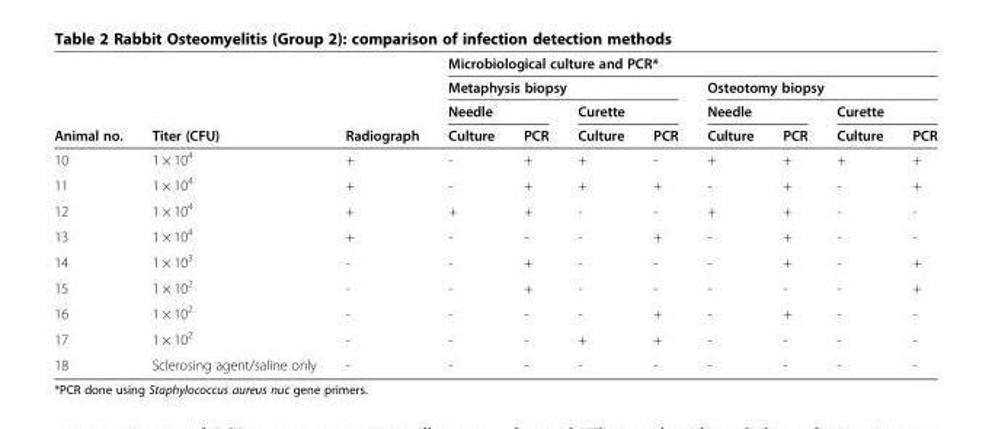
<table><thead><tr><td rowspan="4">Animal no.</td><td rowspan="4">Titer (CFU)</td><td rowspan="4">Radiograph</td><td colspan="8">Microbiological culture and PCR*</td></tr><tr><td colspan="4">Metaphysis biopsy</td><td colspan="4">Osteotomy biopsy</td></tr><tr><td colspan="2">Needle</td><td colspan="2">Curette</td><td colspan="2">Needle</td><td colspan="2">Curette</td></tr><tr><td>Culture</td><td>PCR</td><td>Culture</td><td>PCR</td><td>Culture</td><td>PCR</td><td>Culture</td><td>PCR</td></tr></thead><tbody><tr><td>10</td><td>1 × 10<sup>4</sup></td><td>+</td><td>-</td><td>+</td><td>+</td><td>-</td><td>+</td><td>+</td><td>+</td><td>+</td></tr><tr><td>11</td><td>1 × 10<sup>4</sup></td><td>+</td><td>-</td><td>+</td><td>+</td><td>+</td><td>-</td><td>+</td><td>-</td><td>+</td></tr><tr><td>12</td><td>1 × 10<sup>4</sup></td><td>+</td><td>+</td><td>+</td><td>-</td><td>-</td><td>+</td><td>+</td><td>-</td><td>-</td></tr><tr><td>13</td><td>1 × 10<sup>4</sup></td><td>+</td><td>-</td><td>-</td><td>-</td><td>+</td><td>-</td><td>+</td><td>-</td><td>-</td></tr><tr><td>14</td><td>1 × 10<sup>3</sup></td><td>-</td><td>-</td><td>+</td><td>-</td><td>-</td><td>-</td><td>+</td><td>-</td><td>+</td></tr><tr><td>15</td><td>1 × 10<sup>2</sup></td><td>-</td><td>-</td><td>+</td><td>-</td><td>-</td><td>-</td><td>-</td><td>-</td><td>+</td></tr><tr><td>16</td><td>1 × 10<sup>2</sup></td><td>-</td><td>-</td><td>-</td><td>-</td><td>+</td><td>-</td><td>+</td><td>-</td><td>-</td></tr><tr><td>17</td><td>1 × 10<sup>2</sup></td><td>-</td><td>-</td><td>-</td><td>+</td><td>+</td><td>-</td><td>-</td><td>-</td><td>-</td></tr><tr><td>18</td><td>Sclerosing agent/saline only</td><td>-</td><td>-</td><td>-</td><td>-</td><td>-</td><td>-</td><td>-</td><td>-</td><td>-</td></tr></tbody></table>